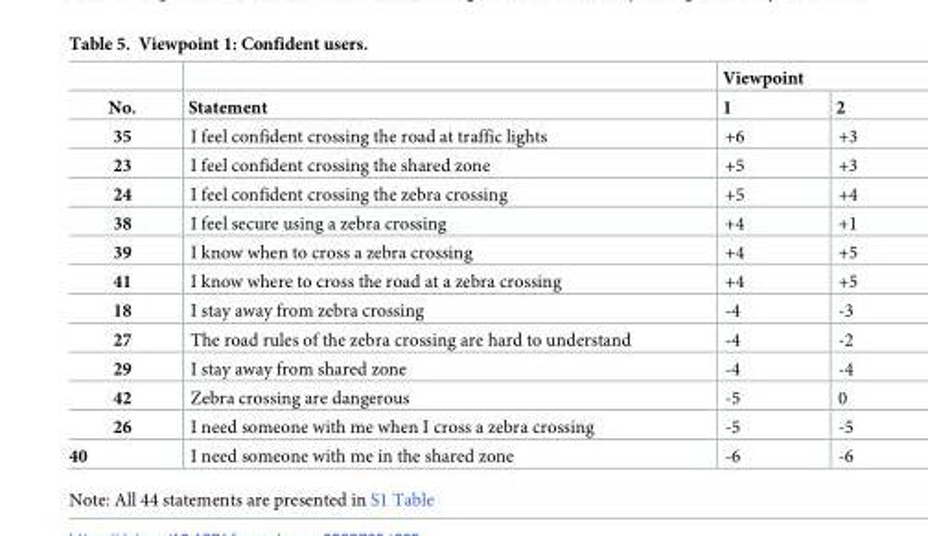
<table><thead><tr><td rowspan="2">No.</td><td rowspan="2">Statement</td><td colspan="2">Viewpoint</td></tr><tr><td>1</td><td>2</td></tr></thead><tbody><tr><td>35</td><td>I feel confident crossing the road at traffic lights</td><td>+6</td><td>+3</td></tr><tr><td>23</td><td>I feel confident crossing the shared zone</td><td>+5</td><td>+3</td></tr><tr><td>24</td><td>I feel confident crossing the zebra crossing</td><td>+5</td><td>+4</td></tr><tr><td>38</td><td>I feel secure using a zebra crossing</td><td>+4</td><td>+1</td></tr><tr><td>39</td><td>I know when to cross a zebra crossing</td><td>+4</td><td>+5</td></tr><tr><td>41</td><td>I know where to cross the road at a zebra crossing</td><td>+4</td><td>+5</td></tr><tr><td>18</td><td>I stay away from zebra crossing</td><td>-4</td><td>-3</td></tr><tr><td>27</td><td>The road rules of the zebra crossing are hard to understand</td><td>-4</td><td>-2</td></tr><tr><td>29</td><td>I stay away from shared zone</td><td>-4</td><td>-4</td></tr><tr><td>42</td><td>Zebra crossing are dangerous</td><td>-5</td><td>0</td></tr><tr><td>26</td><td>I need someone with me when I cross a zebra crossing</td><td>-5</td><td>-5</td></tr><tr><td>40</td><td>I need someone with me in the shared zone</td><td>-6</td><td>-6</td></tr></tbody></table>